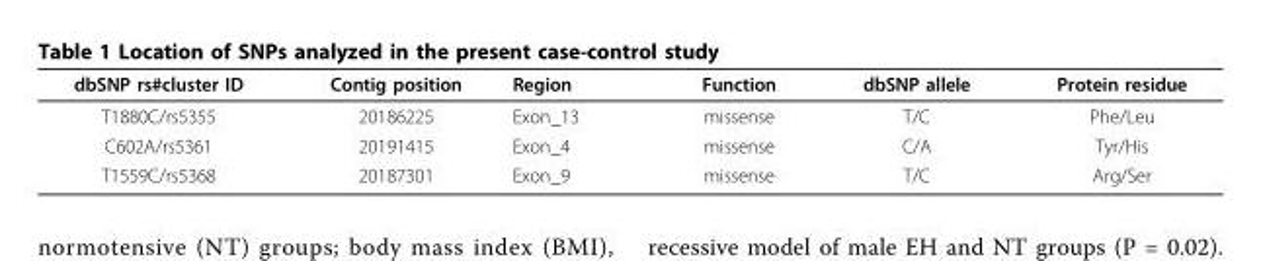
<table><thead><tr><td>dbSNP rs#cluster ID</td><td>Contig position</td><td>Region</td><td>Function</td><td>dbSNP allele</td><td>Protein residue</td></tr></thead><tbody><tr><td>T1880C/rs5355</td><td>20186225</td><td>Exon_13</td><td>missense</td><td>T/C</td><td>Phe/Leu</td></tr><tr><td>C602A/rs5361</td><td>20191415</td><td>Exon_4</td><td>missense</td><td>C/A</td><td>Tyr/His</td></tr><tr><td>T1559C/rs5368</td><td>20187301</td><td>Exon_9</td><td>missense</td><td>T/C</td><td>Arg/Ser</td></tr></tbody></table>